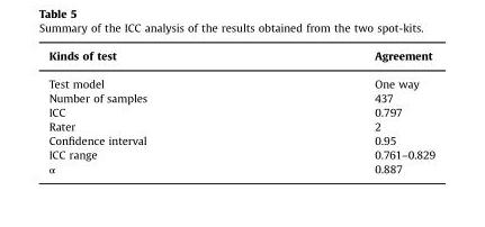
<table><thead><tr><td>Kinds of test</td><td>Agreement</td></tr></thead><tbody><tr><td>Test model</td><td>One way</td></tr><tr><td>Number of samples</td><td>437</td></tr><tr><td>ICC</td><td>0.797</td></tr><tr><td>Rater</td><td>2</td></tr><tr><td>Confidence interval</td><td>0.95</td></tr><tr><td>ICC range</td><td>0.761–0.829</td></tr><tr><td>α</td><td>0.887</td></tr></tbody></table>